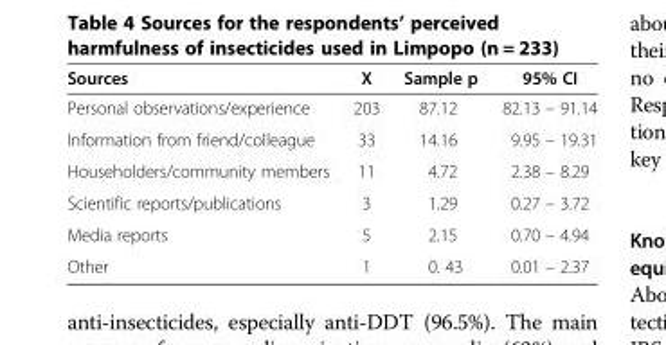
<table><thead><tr><td>Sources</td><td>X</td><td>Sample p</td><td>95% CI</td></tr></thead><tbody><tr><td>Personal observations/experience</td><td>203</td><td>87.12</td><td>82.13 – 91.14</td></tr><tr><td>Information from friend/colleague</td><td>33</td><td>14.16</td><td>9.95 – 19.31</td></tr><tr><td>Householders/community members</td><td>11</td><td>4.72</td><td>2.38 – 8.29</td></tr><tr><td>Scientific reports/publications</td><td>3</td><td>1.29</td><td>0.27 – 3.72</td></tr><tr><td>Media reports</td><td>5</td><td>2.15</td><td>0.70 – 4.94</td></tr><tr><td>Other</td><td>1</td><td>0. 43</td><td>0.01 – 2.37</td></tr></tbody></table>